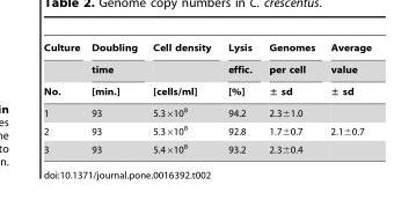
<table><thead><tr><td rowspan="3">Culture No.</td><td rowspan="3">Doubling time [min.]</td><td rowspan="3">Cell density [cells/ml]</td><td rowspan="3">Lysis effic. [%]</td><td rowspan="3">Genomes per cell ± sd</td><td rowspan="3">Average value ± sd</td></tr><tr></tr><tr></tr></thead><tbody><tr><td>1</td><td>93</td><td>5.3×10<sup>8</sup></td><td>94.2</td><td>2.3±1.0</td><td></td></tr><tr><td>2</td><td>93</td><td>5.3×10<sup>8</sup></td><td>92.8</td><td>1.7±0.7</td><td>2.1±0.7</td></tr><tr><td>3</td><td>93</td><td>5.4×10<sup>8</sup></td><td>93.2</td><td>2.3±0.4</td><td></td></tr></tbody></table>